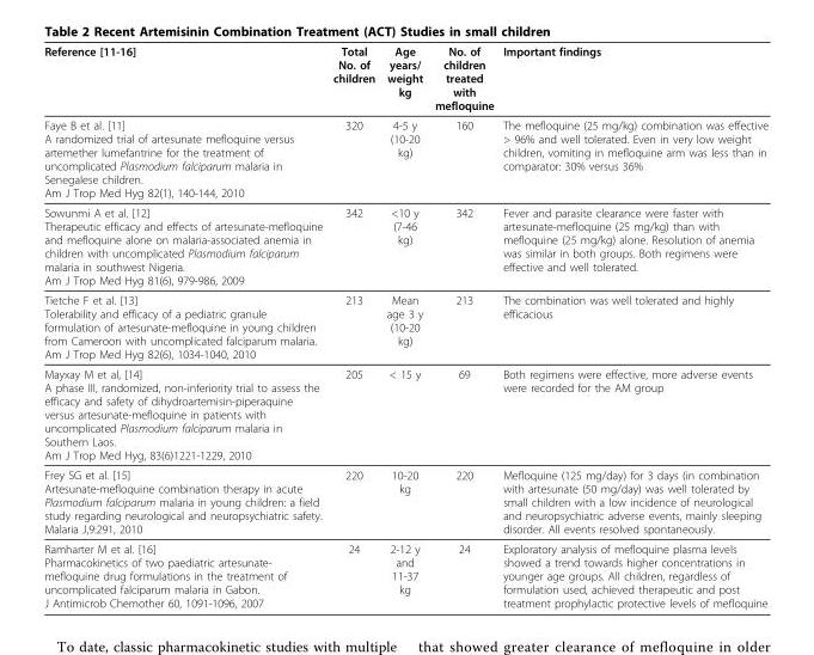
<table><thead><tr><td>Reference [11-16]</td><td>Total No. of children</td><td>Age years/ weight kg</td><td>No. of children treated with mefloquine</td><td>Important findings</td></tr></thead><tbody><tr><td>Faye B et al. [11] A randomized trial of artesunate mefloquine versus artemether lumefantrine for the treatment of uncomplicated Plasmodium falciparum malaria in Senegalese children. Am J Trop Med Hyg 82(1), 140-144, 2010</td><td>320</td><td>4-5 y (10-20 kg)</td><td>160</td><td>The mefloquine (25 mg/kg) combination was effective &gt; 96% and well tolerated. Even in very low weight children, vomiting in mefloquine arm was less than in comparator: 30% versus 36%</td></tr><tr><td>Sowunmi A et al. [12] Therapeutic efficacy and effects of artesunate-mefloquine and mefloquine alone on malaria-associated anemia in children with uncomplicated Plasmodium falciparum malaria in southwest Nigeria. Am J Trop Med Hyg 81(6), 979-986, 2009</td><td>342</td><td>&lt;10 y (7-46 kg)</td><td>342</td><td>Fever and parasite clearance were faster with artesunate-mefloquine (25 mg/kg) than with mefloquine (25 mg/kg) alone. Resolution of anemia was similar in both groups. Both regimens were effective and well tolerated.</td></tr><tr><td>Tietche F et al. [13] Tolerability and efficacy of a pediatric granule formulation of artesunate-mefloquine in young children from Cameroon with uncomplicated falciparum malaria. Am J Trop Med Hyg 82(6), 1034-1040, 2010</td><td>213</td><td>Mean age 3 y (10-20 kg)</td><td>213</td><td>The combination was well tolerated and highly efficacious</td></tr><tr><td>Mayxay M et al, [14] A phase III, randomized, non-inferiority trial to assess the efficacy and safety of dihydroartemisin-piperaquine versus artesunate-mefloquine in patients with uncomplicated Plasmodium falciparum malaria in Southern Laos. Am J Trop Med Hyg, 83(6)1221-1229, 2010</td><td>205</td><td>&lt; 15 y</td><td>69</td><td>Both regimens were effective, more adverse events were recorded for the AM group</td></tr><tr><td>Frey SG et al. [15] Artesunate-mefloquine combination therapy in acute Plasmodium falciparum malaria in young children: a field study regarding neurological and neuropsychiatric safety. Malaria J,9:291, 2010</td><td>220</td><td>10-20 kg</td><td>220</td><td>Mefloquine (125 mg/day) for 3 days (in combination with artesunate (50 mg/day) was well tolerated by small children with a low incidence of neurological and neuropsychiatric adverse events, mainly sleeping disorder. All events resolved spontaneously.</td></tr><tr><td>Ramharter M et al. [16] Pharmacokinetics of two paediatric artesunate- mefloquine drug formulations in the treatment of uncomplicated falciparum malaria in Gabon. J Antimicrob Chemother 60, 1091-1096, 2007</td><td>24</td><td>2-12 y and 11-37 kg</td><td>24</td><td>Exploratory analysis of mefloquine plasma levels showed a trend towards higher concentrations in younger age groups. All children, regardless of formulation used, achieved therapeutic and post treatment prophylactic protective levels of mefloquine</td></tr></tbody></table>